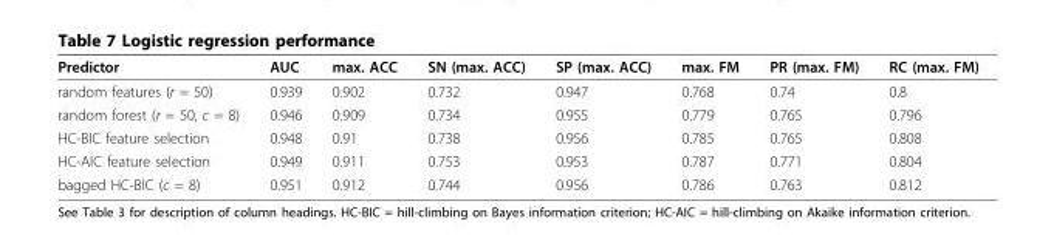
<table><thead><tr><td>Predictor</td><td>AUC</td><td>max. ACC</td><td>SN (max. ACC)</td><td>SP (max. ACC)</td><td>max. FM</td><td>PR (max. FM)</td><td>RC (max. FM)</td></tr></thead><tbody><tr><td>random features (r = 50)</td><td>0.939</td><td>0.902</td><td>0.732</td><td>0.947</td><td>0.768</td><td>0.74</td><td>0.8</td></tr><tr><td>random forest (r = 50, c = 8)</td><td>0.946</td><td>0.909</td><td>0.734</td><td>0.955</td><td>0.779</td><td>0.765</td><td>0.796</td></tr><tr><td>HC-BIC feature selection</td><td>0.948</td><td>0.91</td><td>0.738</td><td>0.956</td><td>0.785</td><td>0.765</td><td>0.808</td></tr><tr><td>HC-AIC feature selection</td><td>0.949</td><td>0.911</td><td>0.753</td><td>0.953</td><td>0.787</td><td>0.771</td><td>0.804</td></tr><tr><td>bagged HC-BIC (c = 8)</td><td>0.951</td><td>0.912</td><td>0.744</td><td>0.956</td><td>0.786</td><td>0.763</td><td>0.812</td></tr></tbody></table>